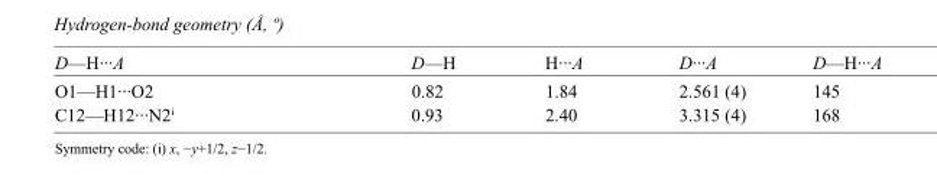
<table><tbody><tr><td>D—H···A</td><td>D—H</td><td>H···A</td><td>D···A</td><td>D—H···A</td></tr><tr><td>O1—H1···O2</td><td>0.82</td><td>1.84</td><td>2.561 (4)</td><td>145</td></tr><tr><td>C12—H12···N2<sup>i</sup></td><td>0.93</td><td>2.40</td><td>3.315 (4)</td><td>168</td></tr></tbody></table>